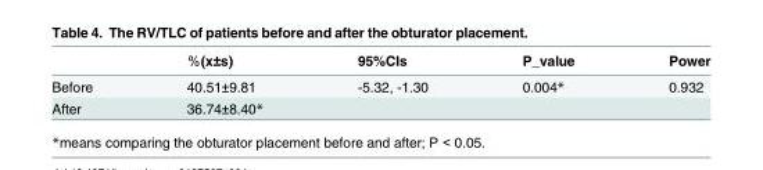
<table><thead><tr><td></td><td>％(x±s)</td><td>95%CIs</td><td>P_value</td><td>Power</td></tr></thead><tbody><tr><td>Before</td><td>40.51±9.81</td><td>-5.32, -1.30</td><td>0.004*</td><td>0.932</td></tr><tr><td>After</td><td>36.74±8.40*</td><td></td><td></td><td></td></tr></tbody></table>